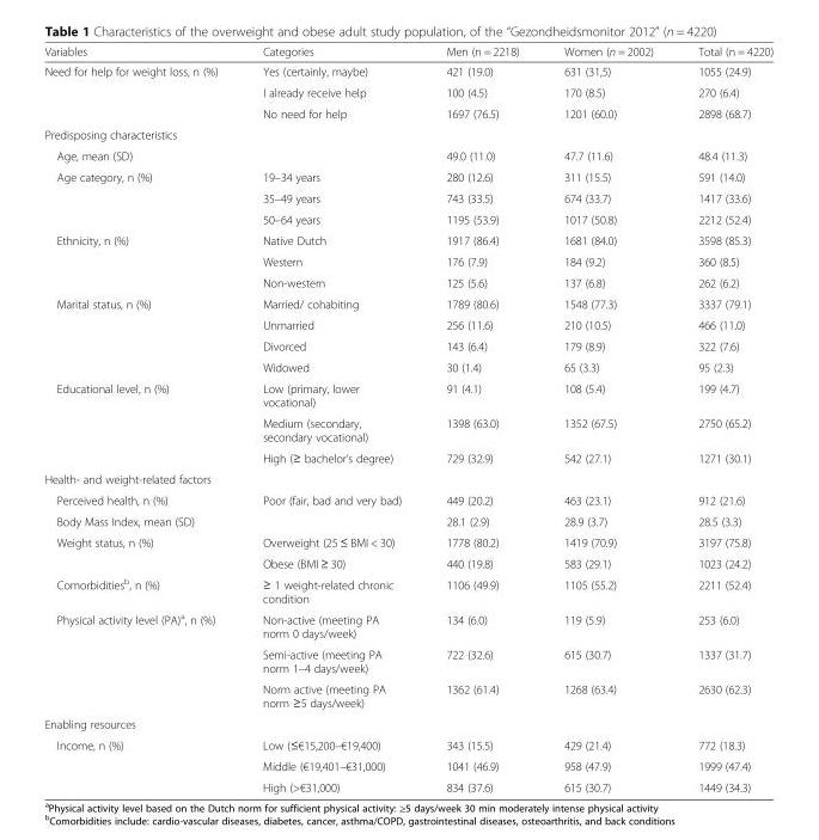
<table><thead><tr><td>Variables</td><td>Categories</td><td>Men (n = 2218)</td><td>Women (n = 2002)</td><td>Total (n = 4220)</td></tr></thead><tbody><tr><td rowspan="3">Need for help for weight loss, n (%)</td><td>Yes (certainly, maybe)</td><td>421 (19.0)</td><td>631 (31,5)</td><td>1055 (24.9)</td></tr><tr><td>I already receive help</td><td>100 (4.5)</td><td>170 (8.5)</td><td>270 (6.4)</td></tr><tr><td>No need for help</td><td>1697 (76.5)</td><td>1201 (60.0)</td><td>2898 (68.7)</td></tr><tr><td colspan="5">Predisposing characteristics</td></tr><tr><td>Age, mean (SD)</td><td></td><td>49.0 (11.0)</td><td>47.7 (11.6)</td><td>48.4 (11.3)</td></tr><tr><td rowspan="3">Age category, n (%)</td><td>19–34 years</td><td>280 (12.6)</td><td>311 (15.5)</td><td>591 (14.0)</td></tr><tr><td>35–49 years</td><td>743 (33.5)</td><td>674 (33.7)</td><td>1417 (33.6)</td></tr><tr><td>50–64 years</td><td>1195 (53.9)</td><td>1017 (50.8)</td><td>2212 (52.4)</td></tr><tr><td rowspan="3">Ethnicity, n (%)</td><td>Native Dutch</td><td>1917 (86.4)</td><td>1681 (84.0)</td><td>3598 (85.3)</td></tr><tr><td>Western</td><td>176 (7.9)</td><td>184 (9.2)</td><td>360 (8.5)</td></tr><tr><td>Non-western</td><td>125 (5.6)</td><td>137 (6.8)</td><td>262 (6.2)</td></tr><tr><td rowspan="4">Marital status, n (%)</td><td>Married/ cohabiting</td><td>1789 (80.6)</td><td>1548 (77.3)</td><td>3337 (79.1)</td></tr><tr><td>Unmarried</td><td>256 (11.6)</td><td>210 (10.5)</td><td>466 (11.0)</td></tr><tr><td>Divorced</td><td>143 (6.4)</td><td>179 (8.9)</td><td>322 (7.6)</td></tr><tr><td>Widowed</td><td>30 (1.4)</td><td>65 (3.3)</td><td>95 (2.3)</td></tr><tr><td rowspan="3">Educational level, n (%)</td><td>Low (primary, lower vocational)</td><td>91 (4.1)</td><td>108 (5.4)</td><td>199 (4.7)</td></tr><tr><td>Medium (secondary, secondary vocational)</td><td>1398 (63.0)</td><td>1352 (67.5)</td><td>2750 (65.2)</td></tr><tr><td>High (≥ bachelor’s degree)</td><td>729 (32.9)</td><td>542 (27.1)</td><td>1271 (30.1)</td></tr><tr><td colspan="5">Health- and weight-related factors</td></tr><tr><td>Perceived health, n (%)</td><td>Poor (fair, bad and very bad)</td><td>449 (20.2)</td><td>463 (23.1)</td><td>912 (21.6)</td></tr><tr><td>Body Mass Index, mean (SD)</td><td></td><td>28.1 (2.9)</td><td>28.9 (3.7)</td><td>28.5 (3.3)</td></tr><tr><td rowspan="2">Weight status, n (%)</td><td>Overweight (25 ≤ BMI &lt; 30)</td><td>1778 (80.2)</td><td>1419 (70.9)</td><td>3197 (75.8)</td></tr><tr><td>Obese (BMI ≥ 30)</td><td>440 (19.8)</td><td>583 (29.1)</td><td>1023 (24.2)</td></tr><tr><td>Comorbidities<sup>b</sup>, n (%)</td><td>≥ 1 weight-related chronic condition</td><td>1106 (49.9)</td><td>1105 (55.2)</td><td>2211 (52.4)</td></tr><tr><td rowspan="3">Physical activity level (PA)<sup>a</sup>, n (%)</td><td>Non-active (meeting PA norm 0 days/week)</td><td>134 (6.0)</td><td>119 (5.9)</td><td>253 (6.0)</td></tr><tr><td>Semi-active (meeting PA norm 1–4 days/week)</td><td>722 (32.6)</td><td>615 (30.7)</td><td>1337 (31.7)</td></tr><tr><td>Norm active (meeting PA norm ≥5 days/week)</td><td>1362 (61.4)</td><td>1268 (63.4)</td><td>2630 (62.3)</td></tr><tr><td colspan="5">Enabling resources</td></tr><tr><td rowspan="3">Income, n (%)</td><td>Low (≤€15,200–€19,400)</td><td>343 (15.5)</td><td>429 (21.4)</td><td>772 (18.3)</td></tr><tr><td>Middle (€19,401–€31,000)</td><td>1041 (46.9)</td><td>958 (47.9)</td><td>1999 (47.4)</td></tr><tr><td>High (&gt;€31,000)</td><td>834 (37.6)</td><td>615 (30.7)</td><td>1449 (34.3)</td></tr></tbody></table>